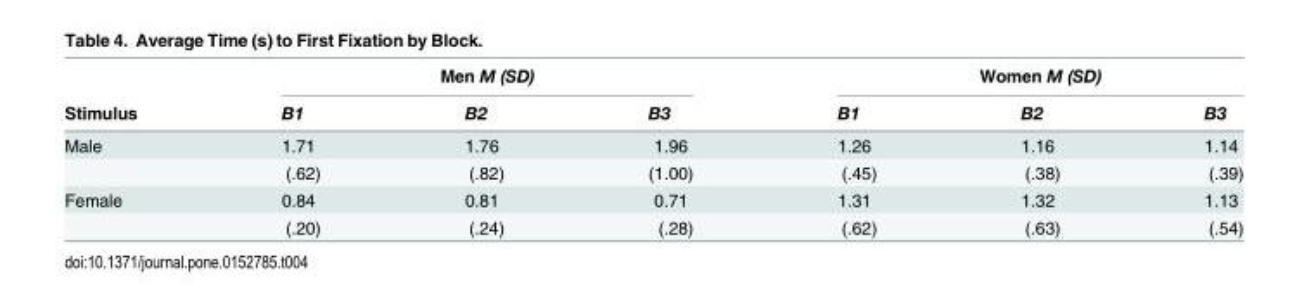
<table><thead><tr><td rowspan="2">Stimulus</td><td colspan="3">Men M (SD)</td><td colspan="3">Women M (SD)</td></tr><tr><td>B1</td><td>B2</td><td>B3</td><td>B1</td><td>B2</td><td>B3</td></tr></thead><tbody><tr><td rowspan="2">Male</td><td>1.71</td><td>1.76</td><td>1.96</td><td>1.26</td><td>1.16</td><td>1.14</td></tr><tr><td>(.62)</td><td>(.82)</td><td>(1.00)</td><td>(.45)</td><td>(.38)</td><td>(.39)</td></tr><tr><td rowspan="2">Female</td><td>0.84</td><td>0.81</td><td>0.71</td><td>1.31</td><td>1.32</td><td>1.13</td></tr><tr><td>(.20)</td><td>(.24)</td><td>(.28)</td><td>(.62)</td><td>(.63)</td><td>(.54)</td></tr></tbody></table>